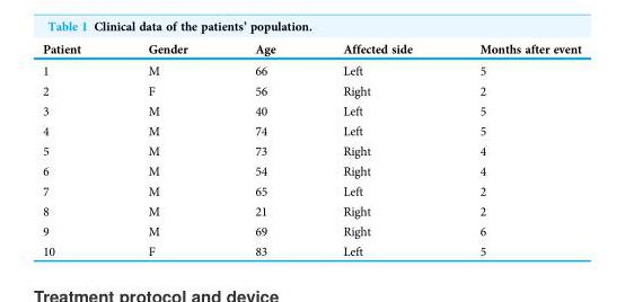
<table><thead><tr><td>Patient</td><td>Gender</td><td>Age</td><td>Affected side</td><td>Months after event</td></tr></thead><tbody><tr><td>1</td><td>M</td><td>66</td><td>Left</td><td>5</td></tr><tr><td>2</td><td>F</td><td>56</td><td>Right</td><td>2</td></tr><tr><td>3</td><td>M</td><td>40</td><td>Left</td><td>5</td></tr><tr><td>4</td><td>M</td><td>74</td><td>Left</td><td>5</td></tr><tr><td>5</td><td>M</td><td>73</td><td>Right</td><td>4</td></tr><tr><td>6</td><td>M</td><td>54</td><td>Right</td><td>4</td></tr><tr><td>7</td><td>M</td><td>65</td><td>Left</td><td>2</td></tr><tr><td>8</td><td>M</td><td>21</td><td>Right</td><td>2</td></tr><tr><td>9</td><td>M</td><td>69</td><td>Right</td><td>6</td></tr><tr><td>10</td><td>F</td><td>83</td><td>Left</td><td>5</td></tr></tbody></table>